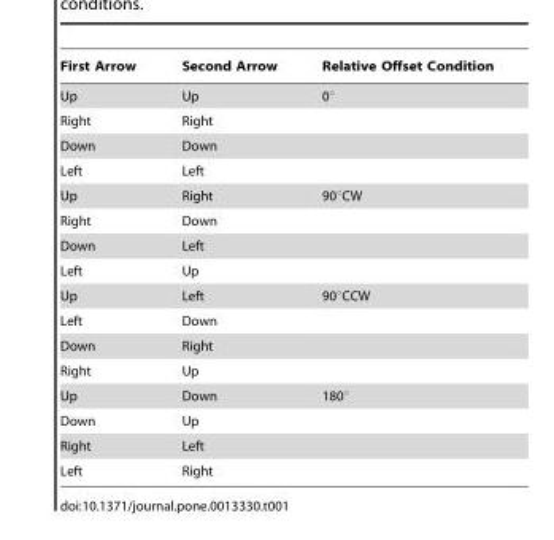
<table><thead><tr><td>First Arrow</td><td>Second Arrow</td><td>Relative Offset Condition</td></tr></thead><tbody><tr><td>Up</td><td>Up</td><td>0°</td></tr><tr><td>Right</td><td>Right</td><td></td></tr><tr><td>Down</td><td>Down</td><td></td></tr><tr><td>Left</td><td>Left</td><td></td></tr><tr><td>Up</td><td>Right</td><td>90°CW</td></tr><tr><td>Right</td><td>Down</td><td></td></tr><tr><td>Down</td><td>Left</td><td></td></tr><tr><td>Left</td><td>Up</td><td></td></tr><tr><td>Up</td><td>Left</td><td>90°CCW</td></tr><tr><td>Left</td><td>Down</td><td></td></tr><tr><td>Down</td><td>Right</td><td></td></tr><tr><td>Right</td><td>Up</td><td></td></tr><tr><td>Up</td><td>Down</td><td>180°</td></tr><tr><td>Down</td><td>Up</td><td></td></tr><tr><td>Right</td><td>Left</td><td></td></tr><tr><td>Left</td><td>Right</td><td></td></tr></tbody></table>